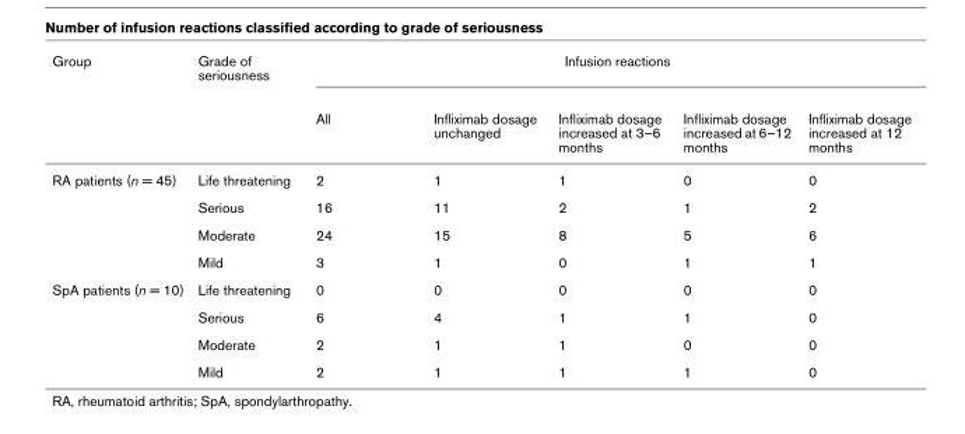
<table><thead><tr><td rowspan="2">Group</td><td rowspan="2">Grade of seriousness</td><td colspan="5">Infusion reactions</td></tr><tr><td>All</td><td>Infliximab dosage unchanged</td><td>Infliximab dosage increased at 3–6 months</td><td>Infliximab dosage increased at 6–12 months</td><td>Infliximab dosage increased at 12 months</td></tr></thead><tbody><tr><td rowspan="4">RA patients (n = 45)</td><td>Life threatening</td><td>2</td><td>1</td><td>1</td><td>0</td><td>0</td></tr><tr><td>Serious</td><td>16</td><td>11</td><td>2</td><td>1</td><td>2</td></tr><tr><td>Moderate</td><td>24</td><td>15</td><td>8</td><td>5</td><td>6</td></tr><tr><td>Mild</td><td>3</td><td>1</td><td>0</td><td>1</td><td>1</td></tr><tr><td rowspan="4">SpA patients (n = 10)</td><td>Life threatening</td><td>0</td><td>0</td><td>0</td><td>0</td><td>0</td></tr><tr><td>Serious</td><td>6</td><td>4</td><td>1</td><td>1</td><td>0</td></tr><tr><td>Moderate</td><td>2</td><td>1</td><td>1</td><td>0</td><td>0</td></tr><tr><td>Mild</td><td>2</td><td>1</td><td>1</td><td>1</td><td>0</td></tr></tbody></table>